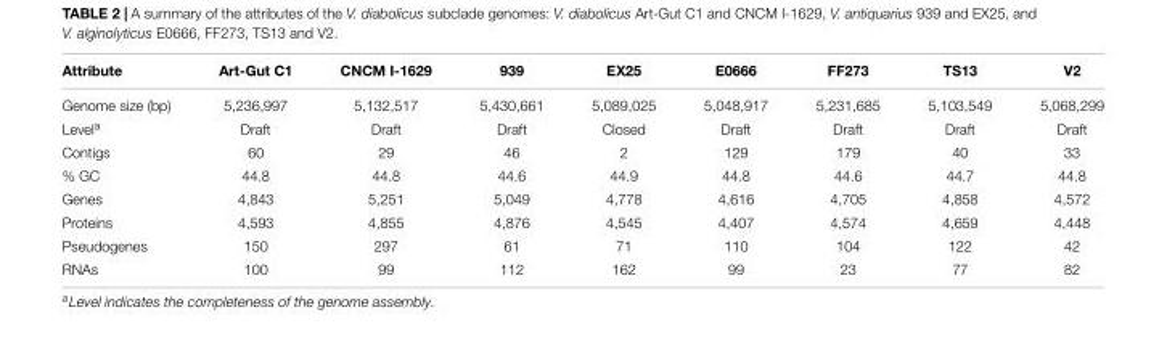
<table><thead><tr><td>Attribute</td><td>Art-Gut C1</td><td>CNCM I-1629</td><td>939</td><td>EX25</td><td>E0666</td><td>FF273</td><td>TS13</td><td>V2</td></tr></thead><tbody><tr><td>Genome size (bp)</td><td>5,236,997</td><td>5,132,517</td><td>5,430,661</td><td>5,089,025</td><td>5,048,917</td><td>5,231,685</td><td>5,103,549</td><td>5,068,299</td></tr><tr><td>Level<sup>a</sup></td><td>Draft</td><td>Draft</td><td>Draft</td><td>Closed</td><td>Draft</td><td>Draft</td><td>Draft</td><td>Draft</td></tr><tr><td>Contigs</td><td>60</td><td>29</td><td>46</td><td>2</td><td>129</td><td>179</td><td>40</td><td>33</td></tr><tr><td>% GC</td><td>44.8</td><td>44.8</td><td>44.6</td><td>44.9</td><td>44.8</td><td>44.6</td><td>44.7</td><td>44.8</td></tr><tr><td>Genes</td><td>4,843</td><td>5,251</td><td>5,049</td><td>4,778</td><td>4,616</td><td>4,705</td><td>4,858</td><td>4,572</td></tr><tr><td>Proteins</td><td>4,593</td><td>4,855</td><td>4,876</td><td>4,545</td><td>4,407</td><td>4,574</td><td>4,659</td><td>4,448</td></tr><tr><td>Pseudogenes</td><td>150</td><td>297</td><td>61</td><td>71</td><td>110</td><td>104</td><td>122</td><td>42</td></tr><tr><td>RNAs</td><td>100</td><td>99</td><td>112</td><td>162</td><td>99</td><td>23</td><td>77</td><td>82</td></tr></tbody></table>